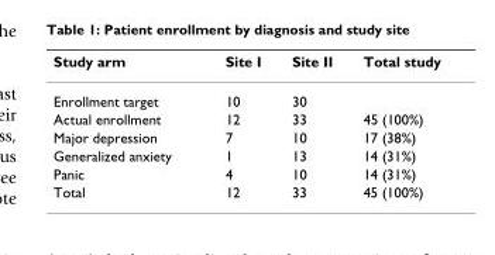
<table><thead><tr><td>Study arm</td><td>Site I</td><td>Site II</td><td>Total study</td></tr></thead><tbody><tr><td>Enrollment target</td><td>10</td><td>30</td><td></td></tr><tr><td>Actual enrollment</td><td>12</td><td>33</td><td>45 (100%)</td></tr><tr><td>Major depression</td><td>7</td><td>10</td><td>17 (38%)</td></tr><tr><td>Generalized anxiety</td><td>1</td><td>13</td><td>14 (31%)</td></tr><tr><td>Panic</td><td>4</td><td>10</td><td>14 (31%)</td></tr><tr><td>Total</td><td>12</td><td>33</td><td>45 (100%)</td></tr></tbody></table>